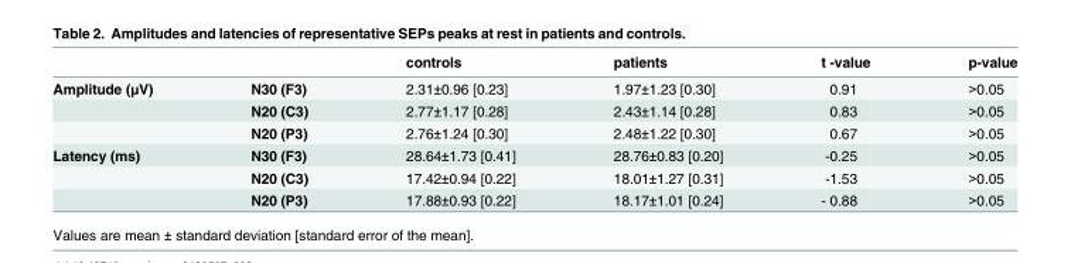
<table><thead><tr><td></td><td></td><td>controls</td><td>patients</td><td>t -value</td><td>p-value</td></tr></thead><tbody><tr><td rowspan="3">Amplitude (μV)</td><td>N30 (F3)</td><td>2.31±0.96 [0.23]</td><td>1.97±1.23 [0.30]</td><td>0.91</td><td>&gt;0.05</td></tr><tr><td>N20 (C3)</td><td>2.77±1.17 [0.28]</td><td>2.43±1.14 [0.28]</td><td>0.83</td><td>&gt;0.05</td></tr><tr><td>N20 (P3)</td><td>2.76±1.24 [0.30]</td><td>2.48±1.22 [0.30]</td><td>0.67</td><td>&gt;0.05</td></tr><tr><td rowspan="3">Latency (ms)</td><td>N30 (F3)</td><td>28.64±1.73 [0.41]</td><td>28.76±0.83 [0.20]</td><td>-0.25</td><td>&gt;0.05</td></tr><tr><td>N20 (C3)</td><td>17.42±0.94 [0.22]</td><td>18.01±1.27 [0.31]</td><td>-1.53</td><td>&gt;0.05</td></tr><tr><td>N20 (P3)</td><td>17.88±0.93 [0.22]</td><td>18.17±1.01 [0.24]</td><td>- 0.88</td><td>&gt;0.05</td></tr></tbody></table>